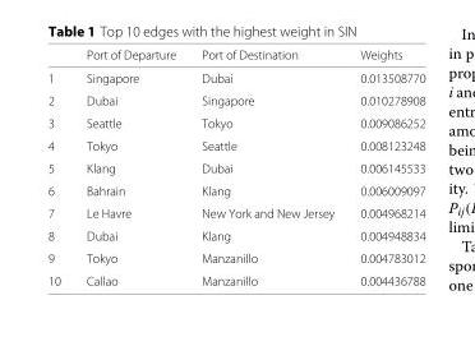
<table><thead><tr><td></td><td>Port of Departure</td><td>Port of Destination</td><td>Weights</td></tr></thead><tbody><tr><td>1</td><td>Singapore</td><td>Dubai</td><td>0.013508770</td></tr><tr><td>2</td><td>Dubai</td><td>Singapore</td><td>0.010278908</td></tr><tr><td>3</td><td>Seattle</td><td>Tokyo</td><td>0.009086252</td></tr><tr><td>4</td><td>Tokyo</td><td>Seattle</td><td>0.008123248</td></tr><tr><td>5</td><td>Klang</td><td>Dubai</td><td>0.006145533</td></tr><tr><td>6</td><td>Bahrain</td><td>Klang</td><td>0.006009097</td></tr><tr><td>7</td><td>Le Havre</td><td>New York and New Jersey</td><td>0.004968214</td></tr><tr><td>8</td><td>Dubai</td><td>Klang</td><td>0.004948834</td></tr><tr><td>9</td><td>Tokyo</td><td>Manzanillo</td><td>0.004783012</td></tr><tr><td>10</td><td>Callao</td><td>Manzanillo</td><td>0.004436788</td></tr></tbody></table>